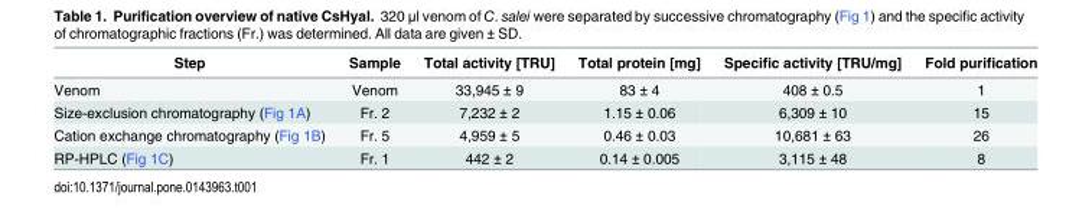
<table><thead><tr><td>Step</td><td>Sample</td><td>Total activity [TRU]</td><td>Total protein [mg]</td><td>Specific activity [TRU/mg]</td><td>Fold purification</td></tr></thead><tbody><tr><td>Venom</td><td>Venom</td><td>33,945 ± 9</td><td>83 ± 4</td><td>408 ± 0.5</td><td>1</td></tr><tr><td>Size-exclusion chromatography (Fig 1A)</td><td>Fr. 2</td><td>7,232 ± 2</td><td>1.15 ± 0.06</td><td>6,309 ± 10</td><td>15</td></tr><tr><td>Cation exchange chromatography (Fig 1B)</td><td>Fr. 5</td><td>4,959 ± 5</td><td>0.46 ± 0.03</td><td>10,681 ± 63</td><td>26</td></tr><tr><td>RP-HPLC (Fig 1C)</td><td>Fr. 1</td><td>442 ± 2</td><td>0.14 ± 0.005</td><td>3,115 ± 48</td><td>8</td></tr></tbody></table>